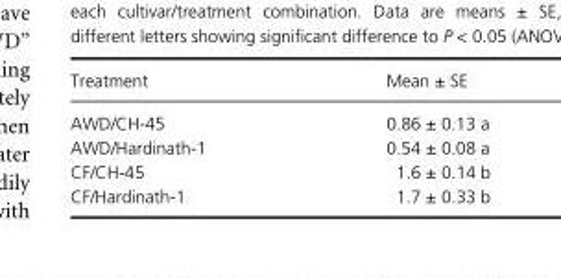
<table><thead><tr><td>Treatment</td><td>Mean ± SE</td></tr></thead><tbody><tr><td>AWD/CH- 45</td><td>0.86 ± 0.13 a</td></tr><tr><td>AWD/Hardinath- 1</td><td>0.54 ± 0.08 a</td></tr><tr><td>CF/CH- 45</td><td>1.6 ± 0.14 b</td></tr><tr><td>CF/Hardinath- 1</td><td>1.7 ± 0.33 b</td></tr></tbody></table>